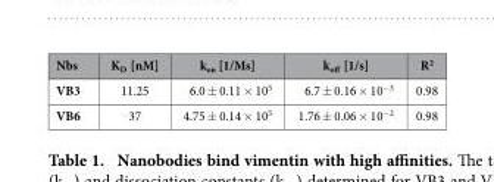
<table><thead><tr><td>Nbs</td><td>K<sub>D</sub> [nM]</td><td>k<sub>on</sub> [1/Ms]</td><td>k<sub>off</sub> [1/s]</td><td>R<sup>2</sup></td></tr></thead><tbody><tr><td>VB3</td><td>11.25</td><td>6.0 ± 0.11 × 10<sup>5</sup></td><td>6.7 ± 0.16 × 10<sup>−3</sup></td><td>0.98</td></tr><tr><td>VB6</td><td>37</td><td>4.75 ± 0.14 × 10<sup>5</sup></td><td>1.76 ± 0.06 × 10<sup>−2</sup></td><td>0.98</td></tr></tbody></table>